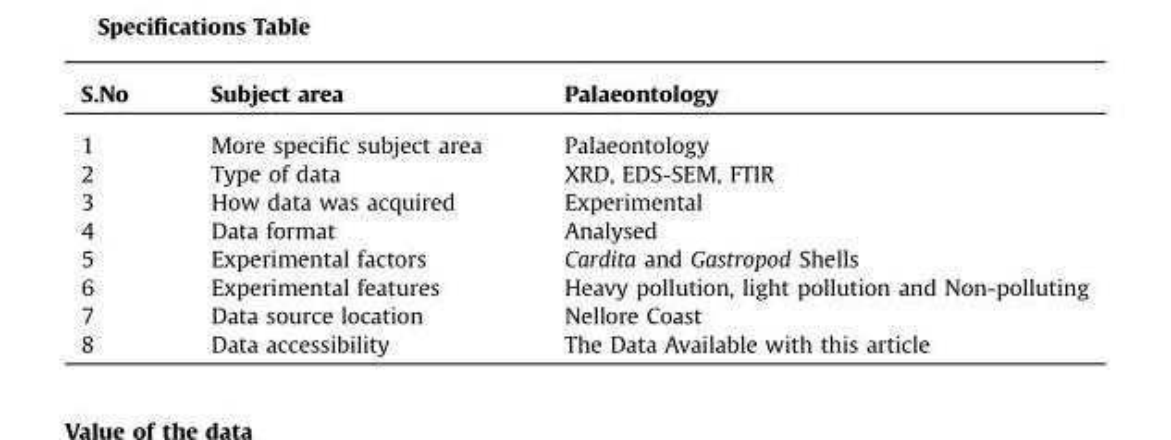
<table><thead><tr><td>S.No</td><td>Subject area</td><td>Palaeontology</td></tr></thead><tbody><tr><td>1</td><td>More specific subject area</td><td>Palaeontology</td></tr><tr><td>2</td><td>Type of data</td><td>XRD, EDS-SEM, FTIR</td></tr><tr><td>3</td><td>How data was acquired</td><td>Experimental</td></tr><tr><td>4</td><td>Data format</td><td>Analysed</td></tr><tr><td>5</td><td>Experimental factors</td><td>Cardita and Gastropod Shells</td></tr><tr><td>6</td><td>Experimental features</td><td>Heavy pollution, light pollution and Non-polluting</td></tr><tr><td>7</td><td>Data source location</td><td>Nellore Coast</td></tr><tr><td>8</td><td>Data accessibility</td><td>The Data Available with this article</td></tr></tbody></table>